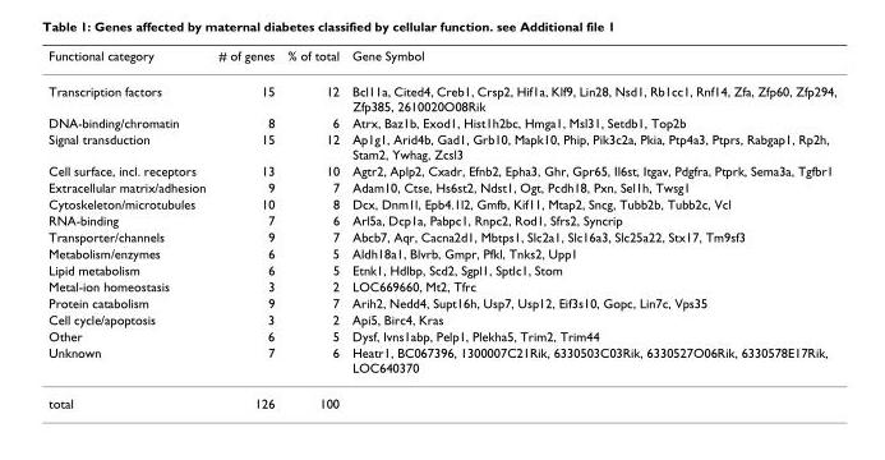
<table><thead><tr><td>Functional category</td><td># of genes</td><td>% of total</td><td>Gene Symbol</td></tr></thead><tbody><tr><td>Transcription factors</td><td>15</td><td>12</td><td>Bcl11a, Cited4, Creb1, Crsp2, Hif1a, Klf9, Lin28, Nsd1, Rb1cc1, Rnf14, Zfa, Zfp60, Zfp294, Zfp385, 2610020O08Rik</td></tr><tr><td>DNA-binding/chromatin</td><td>8</td><td>6</td><td>Atrx, Baz1b, Exod1, Hist1h2bc, Hmga1, Msl31, Setdb1, Top2b</td></tr><tr><td>Signal transduction</td><td>15</td><td>12</td><td>Ap1g1, Arid4b, Gad1, Grb10, Mapk10, Phip, Pik3c2a, Pkia, Ptp4a3, Ptprs, Rabgap1, Rp2h, Stam2, Ywhag, Zcsl3</td></tr><tr><td>Cell surface, incl. receptors</td><td>13</td><td>10</td><td>Agtr2, Aplp2, Cxadr, Efnb2, Epha3, Ghr, Gpr65, Il6st, Itgav, Pdgfra, Ptprk, Sema3a, Tgfbr1</td></tr><tr><td>Extracellular matrix/adhesion</td><td>9</td><td>7</td><td>Adam10, Ctse, Hs6st2, Ndst1, Ogt, Pcdh18, Pxn, Sel1h, Twsg1</td></tr><tr><td>Cytoskeleton/microtubules</td><td>10</td><td>8</td><td>Dcx, Dnm1l, Epb4.1l2, Gmfb, Kif11, Mtap2, Sncg, Tubb2b, Tubb2c, Vcl</td></tr><tr><td>RNA-binding</td><td>7</td><td>6</td><td>Arl5a, Dcp1a, Pabpc1, Rnpc2, Rod1, Sfrs2, Syncrip</td></tr><tr><td>Transporter/channels</td><td>9</td><td>7</td><td>Abcb7, Aqr, Cacna2d1, Mbtps1, Slc2a1, Slc16a3, Slc25a22, Stx17, Tm9sf3</td></tr><tr><td>Metabolism/enzymes</td><td>6</td><td>5</td><td>Aldh18a1, Blvrb, Gmpr, Pfkl, Tnks2, Upp1</td></tr><tr><td>Lipid metabolism</td><td>6</td><td>5</td><td>Etnk1, Hdlbp, Scd2, Sgpl1, Sptlc1, Stom</td></tr><tr><td>Metal-ion homeostasis</td><td>3</td><td>2</td><td>LOC669660, Mt2, Tfrc</td></tr><tr><td>Protein catabolism</td><td>9</td><td>7</td><td>Arih2, Nedd4, Supt16h, Usp7, Usp12, Eif3s10, Gopc, Lin7c, Vps35</td></tr><tr><td>Cell cycle/apoptosis</td><td>3</td><td>2</td><td>Api5, Birc4, Kras</td></tr><tr><td>Other</td><td>6</td><td>5</td><td>Dysf, Ivns1abp, Pelp1, Plekha5, Trim2, Trim44</td></tr><tr><td>Unknown</td><td>7</td><td>6</td><td>Heatr1, BC067396, 1300007C21Rik, 6330503C03Rik, 6330527O06Rik, 6330578E17Rik, LOC640370</td></tr><tr><td>total</td><td>126</td><td>100</td><td></td></tr></tbody></table>